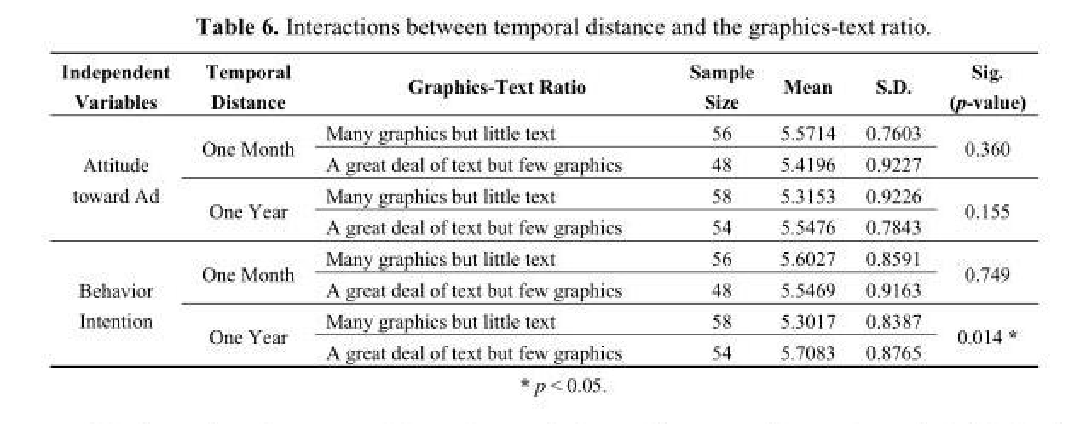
<table><thead><tr><td>Independent Variables</td><td>Temporal Distance</td><td>Graphics-Text Ratio</td><td>Sample Size</td><td>Mean</td><td>S.D.</td><td>Sig. (p-value)</td></tr></thead><tbody><tr><td rowspan="4">Attitude toward Ad</td><td rowspan="2">One Month</td><td>Many graphics but little text</td><td>56</td><td>5.5714</td><td>0.7603</td><td rowspan="2">0.360</td></tr><tr><td>A great deal of text but few graphics</td><td>48</td><td>5.4196</td><td>0.9227</td></tr><tr><td rowspan="2">One Year</td><td>Many graphics but little text</td><td>58</td><td>5.3153</td><td>0.9226</td><td rowspan="2">0.155</td></tr><tr><td>A great deal of text but few graphics</td><td>54</td><td>5.5476</td><td>0.7843</td></tr><tr><td rowspan="4">Behavior Intention</td><td rowspan="2">One Month</td><td>Many graphics but little text</td><td>56</td><td>5.6027</td><td>0.8591</td><td rowspan="2">0.749</td></tr><tr><td>A great deal of text but few graphics</td><td>48</td><td>5.5469</td><td>0.9163</td></tr><tr><td rowspan="2">One Year</td><td>Many graphics but little text</td><td>58</td><td>5.3017</td><td>0.8387</td><td rowspan="2">0.014 *</td></tr><tr><td>A great deal of text but few graphics</td><td>54</td><td>5.7083</td><td>0.8765</td></tr></tbody></table>